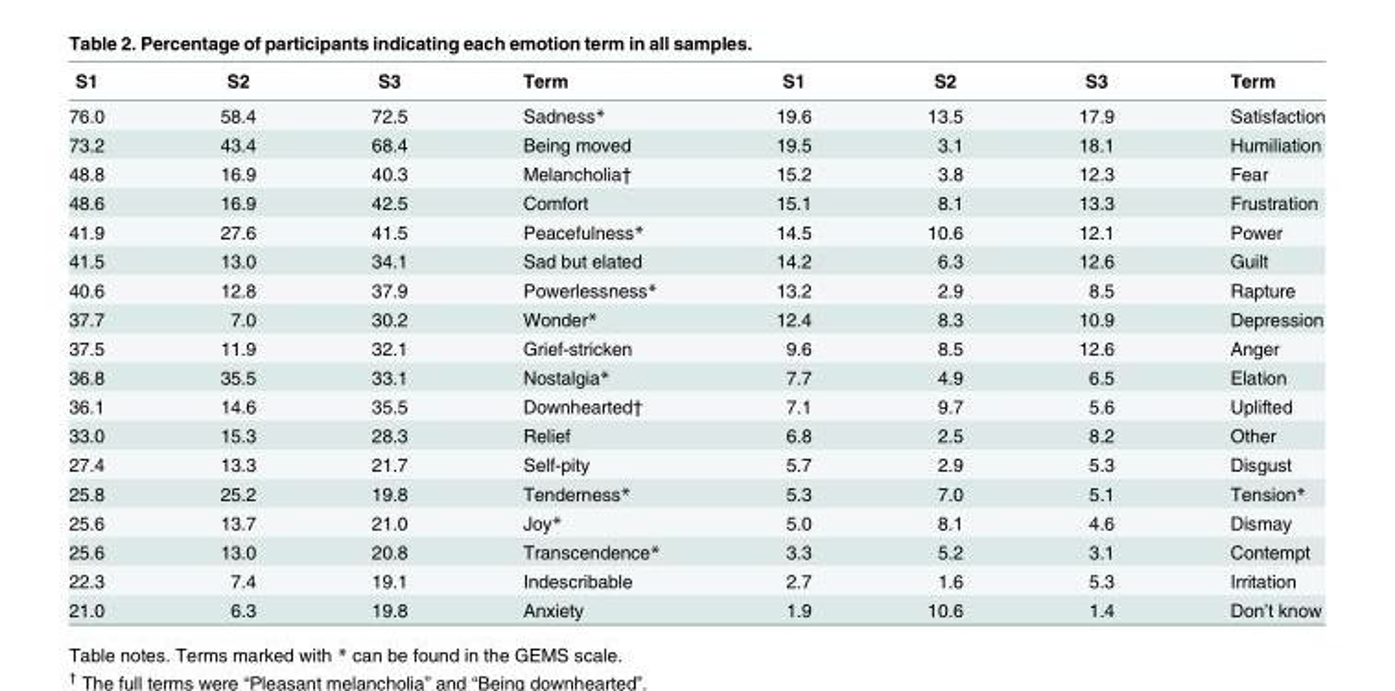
<table><thead><tr><td>S1</td><td>S2</td><td>S3</td><td>Term</td><td>S1</td><td>S2</td><td>S3</td><td>Term</td></tr></thead><tbody><tr><td>76.0</td><td>58.4</td><td>72.5</td><td>Sadness*</td><td>19.6</td><td>13.5</td><td>17.9</td><td>Satisfaction</td></tr><tr><td>73.2</td><td>43.4</td><td>68.4</td><td>Being moved</td><td>19.5</td><td>3.1</td><td>18.1</td><td>Humiliation</td></tr><tr><td>48.8</td><td>16.9</td><td>40.3</td><td>Melancholia†</td><td>15.2</td><td>3.8</td><td>12.3</td><td>Fear</td></tr><tr><td>48.6</td><td>16.9</td><td>42.5</td><td>Comfort</td><td>15.1</td><td>8.1</td><td>13.3</td><td>Frustration</td></tr><tr><td>41.9</td><td>27.6</td><td>41.5</td><td>Peacefulness*</td><td>14.5</td><td>10.6</td><td>12.1</td><td>Power</td></tr><tr><td>41.5</td><td>13.0</td><td>34.1</td><td>Sad but elated</td><td>14.2</td><td>6.3</td><td>12.6</td><td>Guilt</td></tr><tr><td>40.6</td><td>12.8</td><td>37.9</td><td>Powerlessness*</td><td>13.2</td><td>2.9</td><td>8.5</td><td>Rapture</td></tr><tr><td>37.7</td><td>7.0</td><td>30.2</td><td>Wonder*</td><td>12.4</td><td>8.3</td><td>10.9</td><td>Depression</td></tr><tr><td>37.5</td><td>11.9</td><td>32.1</td><td>Grief-stricken</td><td>9.6</td><td>8.5</td><td>12.6</td><td>Anger</td></tr><tr><td>36.8</td><td>35.5</td><td>33.1</td><td>Nostalgia*</td><td>7.7</td><td>4.9</td><td>6.5</td><td>Elation</td></tr><tr><td>36.1</td><td>14.6</td><td>35.5</td><td>Downhearted†</td><td>7.1</td><td>9.7</td><td>5.6</td><td>Uplifted</td></tr><tr><td>33.0</td><td>15.3</td><td>28.3</td><td>Relief</td><td>6.8</td><td>2.5</td><td>8.2</td><td>Other</td></tr><tr><td>27.4</td><td>13.3</td><td>21.7</td><td>Self-pity</td><td>5.7</td><td>2.9</td><td>5.3</td><td>Disgust</td></tr><tr><td>25.8</td><td>25.2</td><td>19.8</td><td>Tenderness*</td><td>5.3</td><td>7.0</td><td>5.1</td><td>Tension*</td></tr><tr><td>25.6</td><td>13.7</td><td>21.0</td><td>Joy*</td><td>5.0</td><td>8.1</td><td>4.6</td><td>Dismay</td></tr><tr><td>25.6</td><td>13.0</td><td>20.8</td><td>Transcendence*</td><td>3.3</td><td>5.2</td><td>3.1</td><td>Contempt</td></tr><tr><td>22.3</td><td>7.4</td><td>19.1</td><td>Indescribable</td><td>2.7</td><td>1.6</td><td>5.3</td><td>Irritation</td></tr><tr><td>21.0</td><td>6.3</td><td>19.8</td><td>Anxiety</td><td>1.9</td><td>10.6</td><td>1.4</td><td>Don’t know</td></tr></tbody></table>